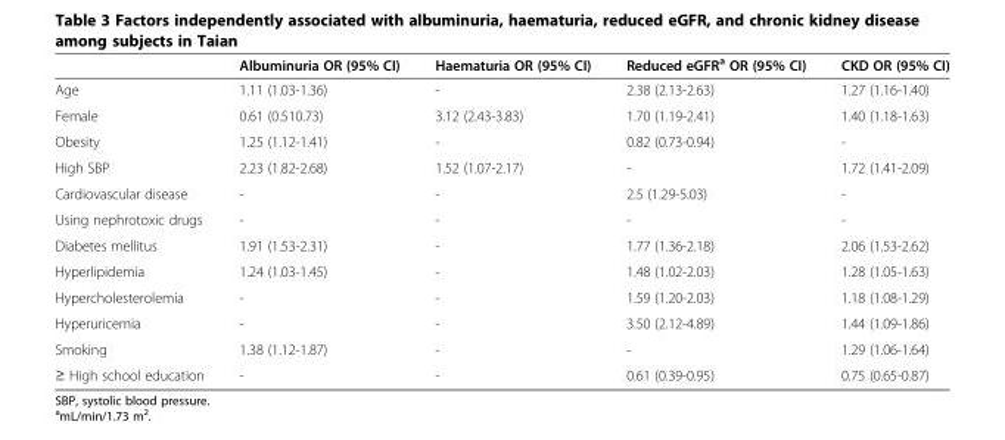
<table><thead><tr><td></td><td>Albuminuria OR (95% CI)</td><td>Haematuria OR (95% CI)</td><td>Reduced eGFR<sup>a</sup> OR (95% CI)</td><td>CKD OR (95% CI)</td></tr></thead><tbody><tr><td>Age</td><td>1.11 (1.03-1.36)</td><td>-</td><td>2.38 (2.13-2.63)</td><td>1.27 (1.16-1.40)</td></tr><tr><td>Female</td><td>0.61 (0.510.73)</td><td>3.12 (2.43-3.83)</td><td>1.70 (1.19-2.41)</td><td>1.40 (1.18-1.63)</td></tr><tr><td>Obesity</td><td>1.25 (1.12-1.41)</td><td>-</td><td>0.82 (0.73-0.94)</td><td>-</td></tr><tr><td>High SBP</td><td>2.23 (1.82-2.68)</td><td>1.52 (1.07-2.17)</td><td>-</td><td>1.72 (1.41-2.09)</td></tr><tr><td>Cardiovascular disease</td><td>-</td><td>-</td><td>2.5 (1.29-5.03)</td><td>-</td></tr><tr><td>Using nephrotoxic drugs</td><td>-</td><td>-</td><td>-</td><td>-</td></tr><tr><td>Diabetes mellitus</td><td>1.91 (1.53-2.31)</td><td>-</td><td>1.77 (1.36-2.18)</td><td>2.06 (1.53-2.62)</td></tr><tr><td>Hyperlipidemia</td><td>1.24 (1.03-1.45)</td><td>-</td><td>1.48 (1.02-2.03)</td><td>1.28 (1.05-1.63)</td></tr><tr><td>Hypercholesterolemia</td><td>-</td><td>-</td><td>1.59 (1.20-2.03)</td><td>1.18 (1.08-1.29)</td></tr><tr><td>Hyperuricemia</td><td>-</td><td>-</td><td>3.50 (2.12-4.89)</td><td>1.44 (1.09-1.86)</td></tr><tr><td>Smoking</td><td>1.38 (1.12-1.87)</td><td>-</td><td>-</td><td>1.29 (1.06-1.64)</td></tr><tr><td>≥ High school education</td><td>-</td><td>-</td><td>0.61 (0.39-0.95)</td><td>0.75 (0.65-0.87)</td></tr></tbody></table>